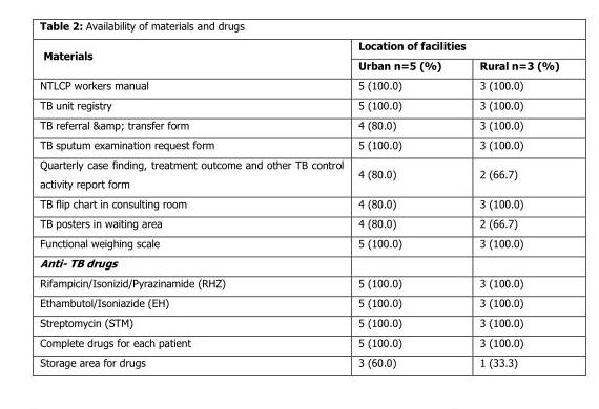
<table><thead><tr><td rowspan="2">Materials</td><td colspan="2">Location of facilities</td></tr><tr><td>Urban n=5 (%)</td><td>Rural n=3 (%)</td></tr></thead><tbody><tr><td>NTLCP workers manual</td><td>5 (100.0)</td><td>3 (100.0)</td></tr><tr><td>TB unit registry</td><td>5 (100.0)</td><td>3 (100.0)</td></tr><tr><td>TB referral &amp;amp; transfer form</td><td>4 (80.0)</td><td>3 (100.0)</td></tr><tr><td>TB sputum examination request form</td><td>5 (100.0)</td><td>3 (100.0)</td></tr><tr><td>Quarterly case finding, treatment outcome and other TB control activity report form</td><td>4 (80.0)</td><td>2 (66.7)</td></tr><tr><td>TB flip chart in consulting room</td><td>4 (80.0)</td><td>3 (100.0)</td></tr><tr><td>TB posters in waiting area</td><td>4 (80.0)</td><td>2 (66.7)</td></tr><tr><td>Functional weighing scale</td><td>5 (100.0)</td><td>3 (100.0)</td></tr><tr><td colspan="3">Anti- TB drugs</td></tr><tr><td>Rifampicin/Isonizid/Pyrazinamide (RHZ)</td><td>5 (100.0)</td><td>3 (100.0)</td></tr><tr><td>Ethambutol/Isoniazide (EH)</td><td>5 (100.0)</td><td>3 (100.0)</td></tr><tr><td>Streptomycin (STM)</td><td>5 (100.0)</td><td>3 (100.0)</td></tr><tr><td>Complete drugs for each patient</td><td>5 (100.0)</td><td>3 (100.0)</td></tr><tr><td>Storage area for drugs</td><td>3 (60.0)</td><td>1 (33.3)</td></tr></tbody></table>